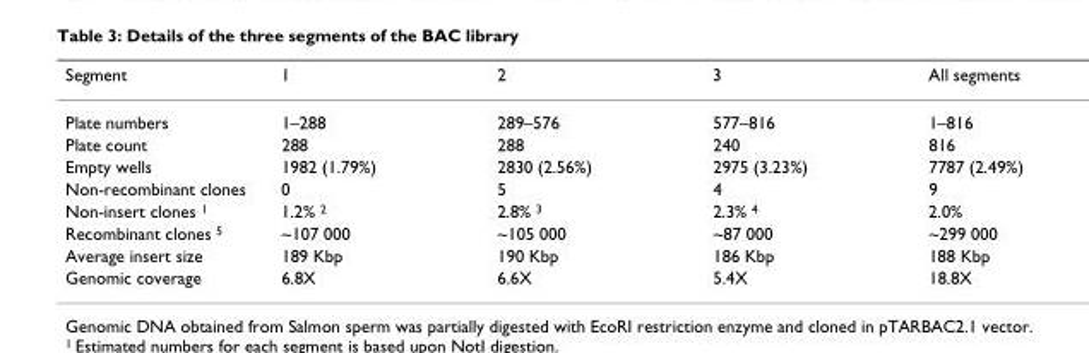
<table><thead><tr><td>Segment</td><td>1</td><td>2</td><td>3</td><td>All segments</td></tr></thead><tbody><tr><td>Plate numbers</td><td>1–288</td><td>289–576</td><td>577–816</td><td>1–816</td></tr><tr><td>Plate count</td><td>288</td><td>288</td><td>240</td><td>816</td></tr><tr><td>Empty wells</td><td>1982 (1.79%)</td><td>2830 (2.56%)</td><td>2975 (3.23%)</td><td>7787 (2.49%)</td></tr><tr><td>Non-recombinant clones</td><td>0</td><td>5</td><td>4</td><td>9</td></tr><tr><td>Non-insert clones <sup>1</sup></td><td>1.2% <sup>2</sup></td><td>2.8% <sup>3</sup></td><td>2.3% <sup>4</sup></td><td>2.0%</td></tr><tr><td>Recombinant clones <sup>5</sup></td><td>~107 000</td><td>~105 000</td><td>~87 000</td><td>~299 000</td></tr><tr><td>Average insert size</td><td>189 Kbp</td><td>190 Kbp</td><td>186 Kbp</td><td>188 Kbp</td></tr><tr><td>Genomic coverage</td><td>6.8X</td><td>6.6X</td><td>5.4X</td><td>18.8X</td></tr></tbody></table>